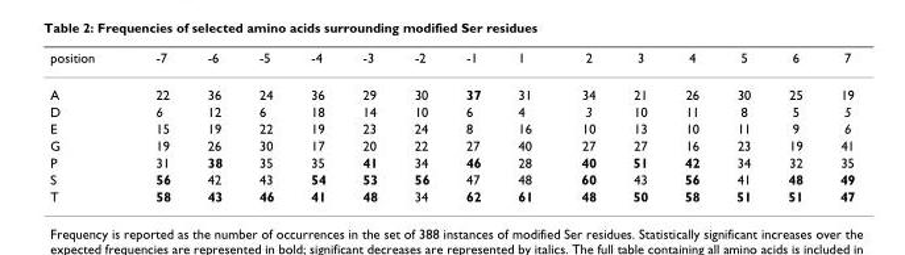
<table><thead><tr><td>position</td><td>-7</td><td>-6</td><td>-5</td><td>-4</td><td>-3</td><td>-2</td><td>-1</td><td>1</td><td>2</td><td>3</td><td>4</td><td>5</td><td>6</td><td>7</td></tr></thead><tbody><tr><td>A</td><td>22</td><td>36</td><td>24</td><td>36</td><td>29</td><td>30</td><td>37</td><td>31</td><td>34</td><td>21</td><td>26</td><td>30</td><td>25</td><td>19</td></tr><tr><td>D</td><td>6</td><td>12</td><td>6</td><td>18</td><td>14</td><td>10</td><td>6</td><td>4</td><td>3</td><td>10</td><td>11</td><td>8</td><td>5</td><td>5</td></tr><tr><td>E</td><td>15</td><td>19</td><td>22</td><td>19</td><td>23</td><td>24</td><td>8</td><td>16</td><td>10</td><td>13</td><td>10</td><td>11</td><td>9</td><td>6</td></tr><tr><td>G</td><td>19</td><td>26</td><td>30</td><td>17</td><td>20</td><td>22</td><td>27</td><td>40</td><td>27</td><td>27</td><td>16</td><td>23</td><td>19</td><td>41</td></tr><tr><td>P</td><td>31</td><td>38</td><td>35</td><td>35</td><td>41</td><td>34</td><td>46</td><td>28</td><td>40</td><td>51</td><td>42</td><td>34</td><td>32</td><td>35</td></tr><tr><td>S</td><td>56</td><td>42</td><td>43</td><td>54</td><td>53</td><td>56</td><td>47</td><td>48</td><td>60</td><td>43</td><td>56</td><td>41</td><td>48</td><td>49</td></tr><tr><td>T</td><td>58</td><td>43</td><td>46</td><td>41</td><td>48</td><td>34</td><td>62</td><td>61</td><td>48</td><td>50</td><td>58</td><td>51</td><td>51</td><td>47</td></tr></tbody></table>